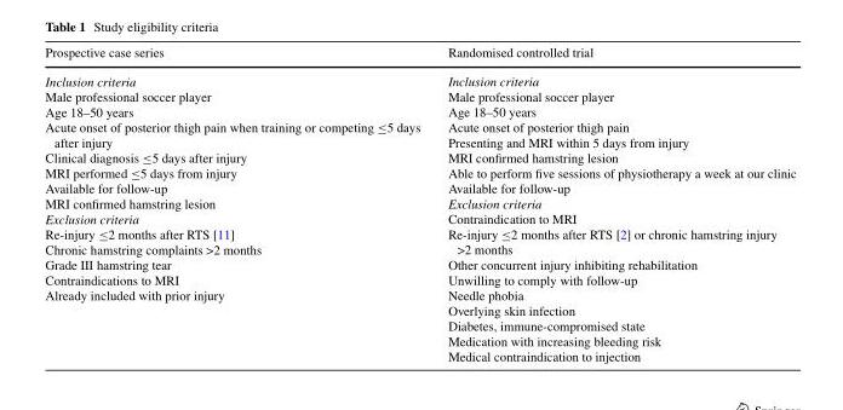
<table><thead><tr><td>Prospective case series</td><td>Randomised controlled trial</td></tr></thead><tbody><tr><td>Inclusion criteria Male professional soccer player Age 18–50 years Acute onset of posterior thigh pain when training or competing ≤5 days after injury Clinical diagnosis ≤5 days after injury MRI performed ≤5 days from injury Available for follow-up MRI confirmed hamstring lesion Exclusion criteria Re-injury ≤2 months after RTS [11] Chronic hamstring complaints &gt;2 months Grade III hamstring tear Contraindications to MRI Already included with prior injury</td><td>Inclusion criteria Male professional soccer player Age 18–50 years Acute onset of posterior thigh pain Presenting and MRI within 5 days from injury MRI confirmed hamstring lesion Able to perform five sessions of physiotherapy a week at our clinic Available for follow-up Exclusion criteria Contraindication to MRI Re-injury ≤2 months after RTS [2] or chronic hamstring injury &gt;2 months Other concurrent injury inhibiting rehabilitation Unwilling to comply with follow-up Needle phobia Overlying skin infection Diabetes, immune-compromised state Medication with increasing bleeding risk Medical contraindication to injection</td></tr></tbody></table>